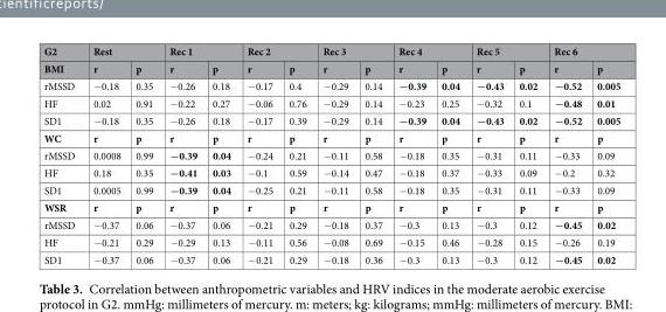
<table><thead><tr><td rowspan="2">G2 BMI</td><td colspan="2">Rest</td><td colspan="2">Rec 1</td><td colspan="2">Rec 2</td><td colspan="2">Rec 3</td><td colspan="2">Rec 4</td><td colspan="2">Rec 5</td><td colspan="2">Rec 6</td></tr><tr><td>r</td><td>p</td><td>r</td><td>p</td><td>r</td><td>p</td><td>r</td><td>p</td><td>r</td><td>p</td><td>r</td><td>p</td><td>r</td><td>p</td></tr></thead><tbody><tr><td>rMSSD</td><td>−0.18</td><td>0.35</td><td>−0.26</td><td>0.18</td><td>−0.17</td><td>0.4</td><td>−0.29</td><td>0.14</td><td>−0.39</td><td>0.04</td><td>−0.43</td><td>0.02</td><td>−0.52</td><td>0.005</td></tr><tr><td>HF</td><td>0.02</td><td>0.91</td><td>−0.22</td><td>0.27</td><td>−0.06</td><td>0.76</td><td>−0.29</td><td>0.14</td><td>−0.23</td><td>0.25</td><td>−0.32</td><td>0.1</td><td>−0.48</td><td>0.01</td></tr><tr><td>SD1</td><td>−0.18</td><td>0.35</td><td>−0.26</td><td>0.18</td><td>−0.17</td><td>0.39</td><td>−0.29</td><td>0.14</td><td>−0.39</td><td>0.04</td><td>−0.43</td><td>0.02</td><td>−0.52</td><td>0.005</td></tr><tr><td>WC</td><td>r</td><td>p</td><td>r</td><td>p</td><td>r</td><td>p</td><td>r</td><td>p</td><td>r</td><td>p</td><td>r</td><td>p</td><td>r</td><td>p</td></tr><tr><td>rMSSD</td><td>0.0008</td><td>0.99</td><td>−0.39</td><td>0.04</td><td>−0.24</td><td>0.21</td><td>−0.11</td><td>0.58</td><td>−0.18</td><td>0.35</td><td>−0.31</td><td>0.11</td><td>−0.33</td><td>0.09</td></tr><tr><td>HF</td><td>0.18</td><td>0.35</td><td>−0.41</td><td>0.03</td><td>−0.1</td><td>0.59</td><td>−0.14</td><td>0.47</td><td>−0.18</td><td>0.37</td><td>−0.33</td><td>0.09</td><td>−0.2</td><td>0.32</td></tr><tr><td>SD1</td><td>0.0005</td><td>0.99</td><td>−0.39</td><td>0.04</td><td>−0.25</td><td>0.21</td><td>−0.11</td><td>0.58</td><td>−0.18</td><td>0.35</td><td>−0.31</td><td>0.11</td><td>−0.33</td><td>0.09</td></tr><tr><td>WSR</td><td>r</td><td>p</td><td>r</td><td>p</td><td>r</td><td>p</td><td>r</td><td>p</td><td>r</td><td>p</td><td>r</td><td>p</td><td>r</td><td>p</td></tr><tr><td>rMSSD</td><td>−0.37</td><td>0.06</td><td>−0.37</td><td>0.06</td><td>−0.21</td><td>0.29</td><td>−0.18</td><td>0.37</td><td>−0.3</td><td>0.13</td><td>−0.3</td><td>0.12</td><td>−0.45</td><td>0.02</td></tr><tr><td>HF</td><td>−0.21</td><td>0.29</td><td>−0.29</td><td>0.13</td><td>−0.11</td><td>0.56</td><td>−0.08</td><td>0.69</td><td>−0.15</td><td>0.46</td><td>−0.28</td><td>0.15</td><td>−0.26</td><td>0.19</td></tr><tr><td>SD1</td><td>−0.37</td><td>0.06</td><td>−0.37</td><td>0.06</td><td>−0.21</td><td>0.29</td><td>−0.18</td><td>0.36</td><td>−0.3</td><td>0.13</td><td>−0.3</td><td>0.12</td><td>−0.45</td><td>0.02</td></tr></tbody></table>